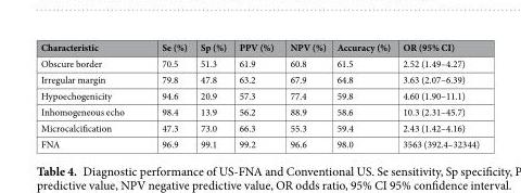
<table><thead><tr><td>Characteristic</td><td>Se (%)</td><td>Sp (%)</td><td>PPV (%)</td><td>NPV (%)</td><td>Accuracy (%)</td><td>OR (95% CI)</td></tr></thead><tbody><tr><td>Obscure border</td><td>70.5</td><td>51.3</td><td>61.9</td><td>60.8</td><td>61.5</td><td>2.52 (1.49–4.27)</td></tr><tr><td>Irregular margin</td><td>79.8</td><td>47.8</td><td>63.2</td><td>67.9</td><td>64.8</td><td>3.63 (2.07–6.39)</td></tr><tr><td>Hypoechogenicity</td><td>94.6</td><td>20.9</td><td>57.3</td><td>77.4</td><td>59.8</td><td>4.60 (1.90–11.1)</td></tr><tr><td>Inhomogeneous echo</td><td>98.4</td><td>13.9</td><td>56.2</td><td>88.9</td><td>58.6</td><td>10.3 (2.31–45.7)</td></tr><tr><td>Microcalcification</td><td>47.3</td><td>73.0</td><td>66.3</td><td>55.3</td><td>59.4</td><td>2.43 (1.42–4.16)</td></tr><tr><td>FNA</td><td>96.9</td><td>99.1</td><td>99.2</td><td>96.6</td><td>98.0</td><td>3563 (392.4–32344)</td></tr></tbody></table>